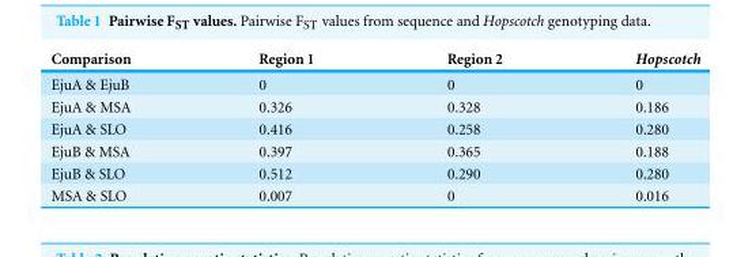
<table><thead><tr><td>Comparison</td><td>Region 1</td><td>Region 2</td><td>Hopscotch</td></tr></thead><tbody><tr><td>EjuA &amp; EjuB</td><td>0</td><td>0</td><td>0</td></tr><tr><td>EjuA &amp; MSA</td><td>0.326</td><td>0.328</td><td>0.186</td></tr><tr><td>EjuA &amp; SLO</td><td>0.416</td><td>0.258</td><td>0.280</td></tr><tr><td>EjuB &amp; MSA</td><td>0.397</td><td>0.365</td><td>0.188</td></tr><tr><td>EjuB &amp; SLO</td><td>0.512</td><td>0.290</td><td>0.280</td></tr><tr><td>MSA &amp; SLO</td><td>0.007</td><td>0</td><td>0.016</td></tr></tbody></table>